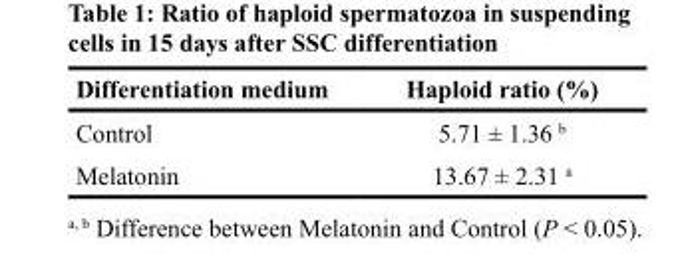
<table><thead><tr><td>Differentiation medium</td><td>Haploid ratio (%)</td></tr></thead><tbody><tr><td>Control</td><td>5.71 ± 1.36 <sup>b</sup></td></tr><tr><td>Melatonin</td><td>13.67 ± 2.31 <sup>a</sup></td></tr></tbody></table>